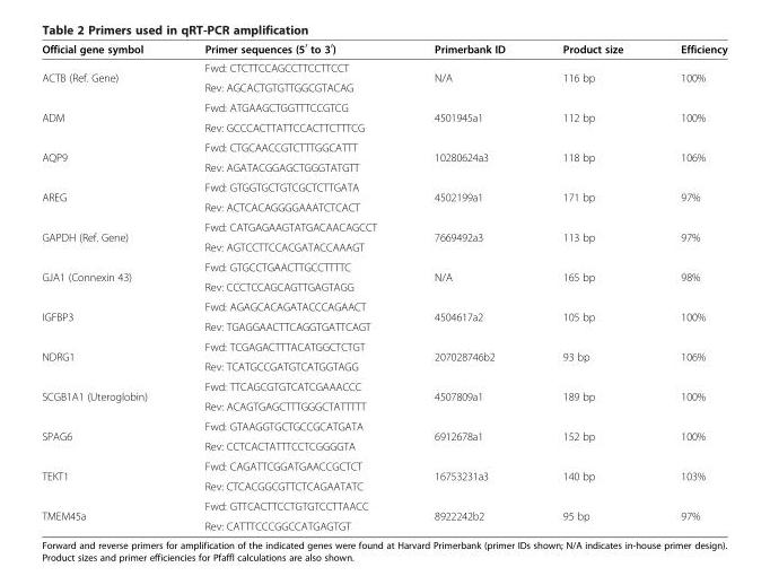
<table><thead><tr><td>Official gene symbol</td><td>Primer sequences (5<sup>′</sup> to 3<sup>′</sup>)</td><td>Primerbank ID</td><td>Product size</td><td>Efficiency</td></tr></thead><tbody><tr><td rowspan="2">ACTB (Ref. Gene)</td><td>Fwd: CTCTTCCAGCCTTCCTTCCT</td><td rowspan="2">N/A</td><td rowspan="2">116 bp</td><td rowspan="2">100%</td></tr><tr><td>Rev: AGCACTGTGTTGGCGTACAG</td></tr><tr><td rowspan="2">ADM</td><td>Fwd: ATGAAGCTGGTTTCCGTCG</td><td rowspan="2">4501945a1</td><td rowspan="2">112 bp</td><td rowspan="2">100%</td></tr><tr><td>Rev: GCCCACTTATTCCACTTCTTTCG</td></tr><tr><td rowspan="2">AQP9</td><td>Fwd: CTGCAACCGTCTTTGGCATTT</td><td rowspan="2">10280624a3</td><td rowspan="2">118 bp</td><td rowspan="2">106%</td></tr><tr><td>Rev: AGATACGGAGCTGGGTATGTT</td></tr><tr><td rowspan="2">AREG</td><td>Fwd: GTGGTGCTGTCGCTCTTGATA</td><td rowspan="2">4502199a1</td><td rowspan="2">171 bp</td><td rowspan="2">97%</td></tr><tr><td>Rev: ACTCACAGGGGAAATCTCACT</td></tr><tr><td rowspan="2">GAPDH (Ref. Gene)</td><td>Fwd: CATGAGAAGTATGACAACAGCCT</td><td rowspan="2">7669492a3</td><td rowspan="2">113 bp</td><td rowspan="2">97%</td></tr><tr><td>Rev: AGTCCTTCCACGATACCAAAGT</td></tr><tr><td rowspan="2">GJA1 (Connexin 43)</td><td>Fwd: GTGCCTGAACTTGCCTTTTC</td><td rowspan="2">N/A</td><td rowspan="2">165 bp</td><td rowspan="2">98%</td></tr><tr><td>Rev: CCCTCCAGCAGTTGAGTAGG</td></tr><tr><td rowspan="2">IGFBP3</td><td>Fwd: AGAGCACAGATACCCAGAACT</td><td rowspan="2">4504617a2</td><td rowspan="2">105 bp</td><td rowspan="2">100%</td></tr><tr><td>Rev: TGAGGAACTTCAGGTGATTCAGT</td></tr><tr><td rowspan="2">NDRG1</td><td>Fwd: TCGAGACTTTACATGGCTCTGT</td><td rowspan="2">207028746b2</td><td rowspan="2">93 bp</td><td rowspan="2">106%</td></tr><tr><td>Rev: TCATGCCGATGTCATGGTAGG</td></tr><tr><td rowspan="2">SCGB1A1 (Uteroglobin)</td><td>Fwd: TTCAGCGTGTCATCGAAACCC</td><td rowspan="2">4507809a1</td><td rowspan="2">189 bp</td><td rowspan="2">100%</td></tr><tr><td>Rev: ACAGTGAGCTTTGGGCTATTTTT</td></tr><tr><td rowspan="2">SPAG6</td><td>Fwd: GTAAGGTGCTGCCGCATGATA</td><td rowspan="2">6912678a1</td><td rowspan="2">152 bp</td><td rowspan="2">100%</td></tr><tr><td>Rev: CCTCACTATTTCCTCGGGGTA</td></tr><tr><td rowspan="2">TEKT1</td><td>Fwd: CAGATTCGGATGAACCGCTCT</td><td rowspan="2">16753231a3</td><td rowspan="2">140 bp</td><td rowspan="2">103%</td></tr><tr><td>Rev: CTCACGGCGTTCTCAGAATATC</td></tr><tr><td rowspan="2">TMEM45a</td><td>Fwd: GTTCACTTCCTGTGTCCTTAACC</td><td rowspan="2">8922242b2</td><td rowspan="2">95 bp</td><td rowspan="2">97%</td></tr><tr><td>Rev: CATTTCCCGGCCATGAGTGT</td></tr></tbody></table>